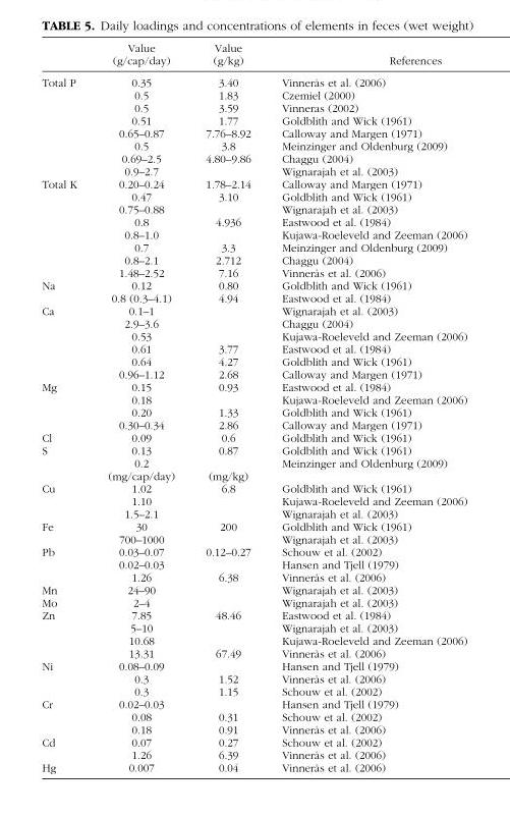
<table><thead><tr><td rowspan="2"></td><td rowspan="2">Value (g/cap/day)</td><td rowspan="2">Value (g/kg)</td><td rowspan="2">References</td></tr><tr></tr></thead><tbody><tr><td rowspan="8">Total P</td><td>0.35</td><td>3.40</td><td>Vinner˚as et al. (2006)</td></tr><tr><td>0.5</td><td>1.83</td><td>Czemiel (2000)</td></tr><tr><td>0.5</td><td>3.59</td><td>Vinneras (2002)</td></tr><tr><td>0.51</td><td>1.77</td><td>Goldblith and Wick (1961)</td></tr><tr><td>0.65–0.87</td><td>7.76–8.92</td><td>Calloway and Margen (1971)</td></tr><tr><td>0.5</td><td>3.8</td><td>Meinzinger and Oldenburg (2009)</td></tr><tr><td>0.69–2.5</td><td>4.80–9.86</td><td>Chaggu (2004)</td></tr><tr><td>0.9–2.7</td><td></td><td>Wignarajah et al. (2003)</td></tr><tr><td rowspan="8">Total K</td><td>0.20–0.24</td><td>1.78–2.14</td><td>Calloway and Margen (1971)</td></tr><tr><td>0.47</td><td>3.10</td><td>Goldblith and Wick (1961)</td></tr><tr><td>0.75–0.88</td><td></td><td>Wignarajah et al. (2003)</td></tr><tr><td>0.8</td><td>4.936</td><td>Eastwood et al. (1984)</td></tr><tr><td>0.8–1.0</td><td></td><td>Kujawa-Roeleveld and Zeeman (2006)</td></tr><tr><td>0.7</td><td>3.3</td><td>Meinzinger and Oldenburg (2009)</td></tr><tr><td>0.8–2.1</td><td>2.712</td><td>Chaggu (2004)</td></tr><tr><td>1.48–2.52</td><td>7.16</td><td>Vinner˚as et al. (2006)</td></tr><tr><td rowspan="2">Na</td><td>0.12</td><td>0.80</td><td>Goldblith and Wick (1961)</td></tr><tr><td>0.8 (0.3–4.1)</td><td>4.94</td><td>Eastwood et al. (1984)</td></tr><tr><td rowspan="6">Ca</td><td>0.1–1</td><td></td><td>Wignarajah et al. (2003)</td></tr><tr><td>2.9–3.6</td><td></td><td>Chaggu (2004)</td></tr><tr><td>0.53</td><td></td><td>Kujawa-Roeleveld and Zeeman (2006)</td></tr><tr><td>0.61</td><td>3.77</td><td>Eastwood et al. (1984)</td></tr><tr><td>0.64</td><td>4.27</td><td>Goldblith and Wick (1961)</td></tr><tr><td>0.96–1.12</td><td>2.68</td><td>Calloway and Margen (1971)</td></tr><tr><td rowspan="4">Mg</td><td>0.15</td><td>0.93</td><td>Eastwood et al. (1984)</td></tr><tr><td>0.18</td><td></td><td>Kujawa-Roeleveld and Zeeman (2006)</td></tr><tr><td>0.20</td><td>1.33</td><td>Goldblith and Wick (1961)</td></tr><tr><td>0.30–0.34</td><td>2.86</td><td>Calloway and Margen (1971)</td></tr><tr><td>Cl</td><td>0.09</td><td>0.6</td><td>Goldblith and Wick (1961)</td></tr><tr><td rowspan="3">S</td><td>0.13</td><td>0.87</td><td>Goldblith and Wick (1961)</td></tr><tr><td>0.2</td><td></td><td>Meinzinger and Oldenburg (2009)</td></tr><tr><td>(mg/cap/day)</td><td>(mg/kg)</td><td></td></tr><tr><td rowspan="3">Cu</td><td>1.02</td><td>6.8</td><td>Goldblith and Wick (1961)</td></tr><tr><td>1.10</td><td></td><td>Kujawa-Roeleveld and Zeeman (2006)</td></tr><tr><td>1.5–2.1</td><td></td><td>Wignarajah et al. (2003)</td></tr><tr><td rowspan="2">Fe</td><td>30</td><td>200</td><td>Goldblith and Wick (1961)</td></tr><tr><td>700–1000</td><td></td><td>Wignarajah et al. (2003)</td></tr><tr><td rowspan="3">Pb</td><td>0.03–0.07</td><td>0.12–0.27</td><td>Schouw et al. (2002)</td></tr><tr><td>0.02–0.03</td><td></td><td>Hansen and Tjell (1979)</td></tr><tr><td>1.26</td><td>6.38</td><td>Vinner˚as et al. (2006)</td></tr><tr><td>Mn</td><td>24–90</td><td></td><td>Wignarajah et al. (2003)</td></tr><tr><td>Mo</td><td>2–4</td><td></td><td>Wignarajah et al. (2003)</td></tr><tr><td rowspan="4">Zn</td><td>7.85</td><td>48.46</td><td>Eastwood et al. (1984)</td></tr><tr><td>5–10</td><td></td><td>Wignarajah et al. (2003)</td></tr><tr><td>10.68</td><td></td><td>Kujawa-Roeleveld and Zeeman (2006)</td></tr><tr><td>13.31</td><td>67.49</td><td>Vinner˚as et al. (2006)</td></tr><tr><td rowspan="3">Ni</td><td>0.08–0.09</td><td></td><td>Hansen and Tjell (1979)</td></tr><tr><td>0.3</td><td>1.52</td><td>Vinner˚as et al. (2006)</td></tr><tr><td>0.3</td><td>1.15</td><td>Schouw et al. (2002)</td></tr><tr><td rowspan="3">Cr</td><td>0.02–0.03</td><td></td><td>Hansen and Tjell (1979)</td></tr><tr><td>0.08</td><td>0.31</td><td>Schouw et al. (2002)</td></tr><tr><td>0.18</td><td>0.91</td><td>Vinner˚as et al. (2006)</td></tr><tr><td rowspan="2">Cd</td><td>0.07</td><td>0.27</td><td>Schouw et al. (2002)</td></tr><tr><td>1.26</td><td>6.39</td><td>Vinner˚as et al. (2006)</td></tr><tr><td>Hg</td><td>0.007</td><td>0.04</td><td>Vinner˚as et al. (2006)</td></tr></tbody></table>